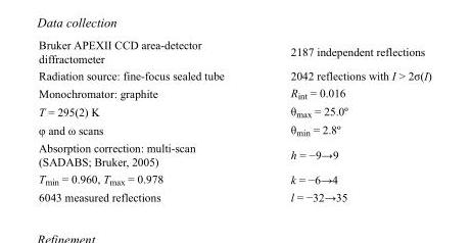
<table><tbody><tr><td>Bruker APEXII CCD area-detector diffractometer</td><td>2187 independent reflections</td></tr><tr><td>Radiation source: fine-focus sealed tube</td><td>2042 reflections with I &gt; 2σ(I)</td></tr><tr><td>Monochromator: graphite</td><td>R<sub>int</sub> = 0.016</td></tr><tr><td>T = 295(2) K</td><td>θ<sub>max</sub> = 25.0º</td></tr><tr><td>φ and ω scans</td><td>θ<sub>min</sub> = 2.8º</td></tr><tr><td>Absorption correction: multi-scan (SADABS; Bruker, 2005)</td><td>h = −9→9</td></tr><tr><td>T<sub>min</sub> = 0.960, T<sub>max</sub> = 0.978</td><td>k = −6→4</td></tr><tr><td>6043 measured reflections</td><td>l = −32→35</td></tr></tbody></table>